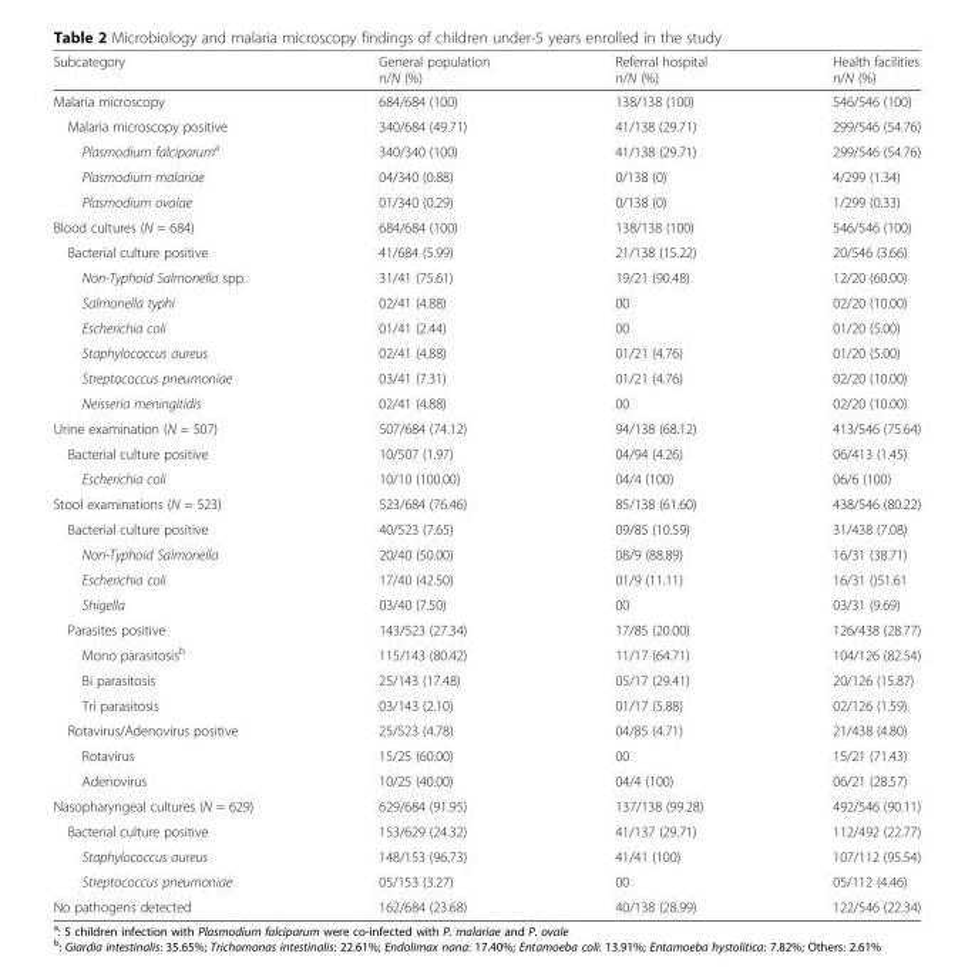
<table><thead><tr><td>Subcategory</td><td>General population n/N (%)</td><td>Referral hospital n/N (%)</td><td>Health facilities n/N (%)</td></tr></thead><tbody><tr><td>Malaria microscopy</td><td>684/684 (100)</td><td>138/138 (100)</td><td>546/546 (100)</td></tr><tr><td>Malaria microscopy positive</td><td>340/684 (49.71)</td><td>41/138 (29.71)</td><td>299/546 (54.76)</td></tr><tr><td>Plasmodium falciparum<sup>a</sup></td><td>340/340 (100)</td><td>41/138 (29.71)</td><td>299/546 (54.76)</td></tr><tr><td>Plasmodium malariae</td><td>04/340 (0.88)</td><td>0/138 (0)</td><td>4/299 (1.34)</td></tr><tr><td>Plasmodium ovalae</td><td>01/340 (0.29)</td><td>0/138 (0)</td><td>1/299 (0.33)</td></tr><tr><td>Blood cultures (N = 684)</td><td>684/684 (100)</td><td>138/138 (100)</td><td>546/546 (100)</td></tr><tr><td>Bacterial culture positive</td><td>41/684 (5.99)</td><td>21/138 (15.22)</td><td>20/546 (3.66)</td></tr><tr><td>Non-Typhoid Salmonella spp.</td><td>31/41 (75.61)</td><td>19/21 (90.48)</td><td>12/20 (60.00)</td></tr><tr><td>Salmonella typhi</td><td>02/41 (4.88)</td><td>00</td><td>02/20 (10.00)</td></tr><tr><td>Escherichia coli</td><td>01/41 (2.44)</td><td>00</td><td>01/20 (5.00)</td></tr><tr><td>Staphylococcus aureus</td><td>02/41 (4.88)</td><td>01/21 (4.76)</td><td>01/20 (5.00)</td></tr><tr><td>Streptococcus pneumoniae</td><td>03/41 (7.31)</td><td>01/21 (4.76)</td><td>02/20 (10.00)</td></tr><tr><td>Neisseria meningitidis</td><td>02/41 (4.88)</td><td>00</td><td>02/20 (10.00)</td></tr><tr><td>Urine examination (N = 507)</td><td>507/684 (74.12)</td><td>94/138 (68.12)</td><td>413/546 (75.64)</td></tr><tr><td>Bacterial culture positive</td><td>10/507 (1.97)</td><td>04/94 (4.26)</td><td>06/413 (1.45)</td></tr><tr><td>Escherichia coli</td><td>10/10 (100.00)</td><td>04/4 (100)</td><td>06/6 (100)</td></tr><tr><td>Stool examinations (N = 523)</td><td>523/684 (76.46)</td><td>85/138 (61.60)</td><td>438/546 (80.22)</td></tr><tr><td>Bacterial culture positive</td><td>40/523 (7.65)</td><td>09/85 (10.59)</td><td>31/438 (7.08)</td></tr><tr><td>Non-Typhoid Salmonella</td><td>20/40 (50.00)</td><td>08/9 (88.89)</td><td>16/31 (38.71)</td></tr><tr><td>Escherichia coli</td><td>17/40 (42.50)</td><td>01/9 (11.11)</td><td>16/31 ()51.61</td></tr><tr><td>Shigella</td><td>03/40 (7.50)</td><td>00</td><td>03/31 (9.69)</td></tr><tr><td>Parasites positive</td><td>143/523 (27.34)</td><td>17/85 (20.00)</td><td>126/438 (28.77)</td></tr><tr><td>Mono parasitosis<sup>b</sup></td><td>115/143 (80.42)</td><td>11/17 (64.71)</td><td>104/126 (82.54)</td></tr><tr><td>Bi parasitosis</td><td>25/143 (17.48)</td><td>05/17 (29.41)</td><td>20/126 (15.87)</td></tr><tr><td>Tri parasitosis</td><td>03/143 (2.10)</td><td>01/17 (5.88)</td><td>02/126 (1.59)</td></tr><tr><td>Rotavirus/Adenovirus positive</td><td>25/523 (4.78)</td><td>04/85 (4.71)</td><td>21/438 (4.80)</td></tr><tr><td>Rotavirus</td><td>15/25 (60.00)</td><td>00</td><td>15/21 (71.43)</td></tr><tr><td>Adenovirus</td><td>10/25 (40.00)</td><td>04/4 (100)</td><td>06/21 (28.57)</td></tr><tr><td>Nasopharyngeal cultures (N = 629)</td><td>629/684 (91.95)</td><td>137/138 (99.28)</td><td>492/546 (90.11)</td></tr><tr><td>Bacterial culture positive</td><td>153/629 (24.32)</td><td>41/137 (29.71)</td><td>112/492 (22.77)</td></tr><tr><td>Staphylococcus aureus</td><td>148/153 (96.73)</td><td>41/41 (100)</td><td>107/112 (95.54)</td></tr><tr><td>Streptococcus pneumoniae</td><td>05/153 (3.27)</td><td>00</td><td>05/112 (4.46)</td></tr><tr><td>No pathogens detected</td><td>162/684 (23.68)</td><td>40/138 (28.99)</td><td>122/546 (22.34)</td></tr></tbody></table>